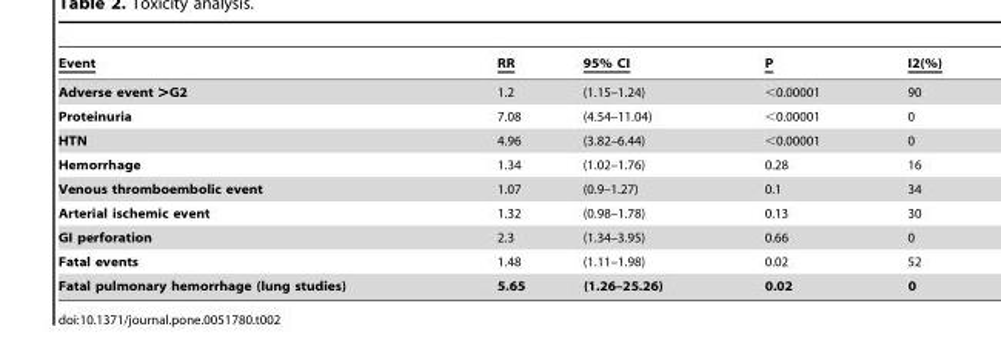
<table><thead><tr><td>Event</td><td>RR</td><td>95% CI</td><td>P</td><td>I2(%)</td></tr></thead><tbody><tr><td>Adverse event &gt;G2</td><td>1.2</td><td>(1.15–1.24)</td><td>&lt;0.00001</td><td>90</td></tr><tr><td>Proteinuria</td><td>7.08</td><td>(4.54–11.04)</td><td>&lt;0.00001</td><td>0</td></tr><tr><td>HTN</td><td>4.96</td><td>(3.82–6.44)</td><td>&lt;0.00001</td><td>0</td></tr><tr><td>Hemorrhage</td><td>1.34</td><td>(1.02–1.76)</td><td>0.28</td><td>16</td></tr><tr><td>Venous thromboembolic event</td><td>1.07</td><td>(0.9–1.27)</td><td>0.1</td><td>34</td></tr><tr><td>Arterial ischemic event</td><td>1.32</td><td>(0.98–1.78)</td><td>0.13</td><td>30</td></tr><tr><td>GI perforation</td><td>2.3</td><td>(1.34–3.95)</td><td>0.66</td><td>0</td></tr><tr><td>Fatal events</td><td>1.48</td><td>(1.11–1.98)</td><td>0.02</td><td>52</td></tr><tr><td>Fatal pulmonary hemorrhage (lung studies)</td><td>5.65</td><td>(1.26–25.26)</td><td>0.02</td><td>0</td></tr></tbody></table>